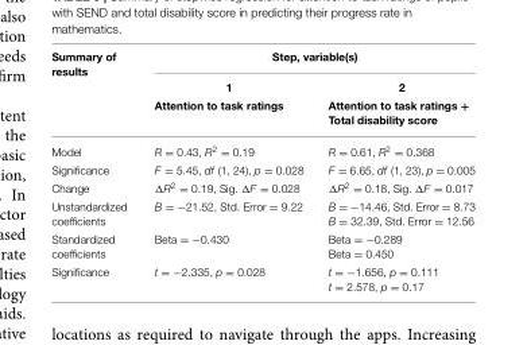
<table><thead><tr><td rowspan="3">Summary of results</td><td colspan="2">Step, variable(s)</td></tr><tr><td rowspan="2">1 Attention to task ratings</td><td rowspan="2">2 Attention to task ratings + Total disability score</td></tr><tr></tr></thead><tbody><tr><td>Model</td><td>R = 0.43, R<sup>2</sup> = 0.19</td><td>R = 0.61, R<sup>2</sup> = 0.368</td></tr><tr><td>Significance</td><td>F = 5.45, df (1, 24), p = 0.028</td><td>F = 6.65, df (1, 23), p = 0.005</td></tr><tr><td>Change</td><td>ΔR<sup>2</sup> = 0.19, Sig. ΔF = 0.028</td><td>ΔR<sup>2</sup> = 0.18, Sig. ΔF = 0.017</td></tr><tr><td>Unstandardized coefficients</td><td>B = −21.52, Std. Error = 9.22</td><td>B = −14.46, Std. Error = 8.73 B = 32.39, Std. Error = 12.56</td></tr><tr><td>Standardized coefficients</td><td>Beta = −0.430</td><td>Beta = −0.289 Beta = 0.450</td></tr><tr><td>Significance</td><td>t = −2.335, p = 0.028</td><td>t = −1.656, p = 0.111 t = 2.578, p = 0.17</td></tr></tbody></table>